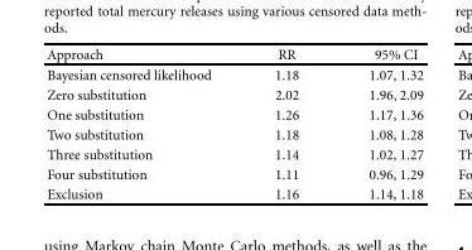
<table><thead><tr><td>Approach</td><td>RR</td><td>95% CI</td></tr></thead><tbody><tr><td>Bayesian censored likelihood</td><td>1.18</td><td>1.07, 1.32</td></tr><tr><td>Zero substitution</td><td>2.02</td><td>1.96, 2.09</td></tr><tr><td>One substitution</td><td>1.26</td><td>1.17, 1.36</td></tr><tr><td>Two substitution</td><td>1.18</td><td>1.08, 1.28</td></tr><tr><td>Three substitution</td><td>1.14</td><td>1.02, 1.27</td></tr><tr><td>Four substitution</td><td>1.11</td><td>0.96, 1.29</td></tr><tr><td>Exclusion</td><td>1.16</td><td>1.14, 1.18</td></tr></tbody></table>